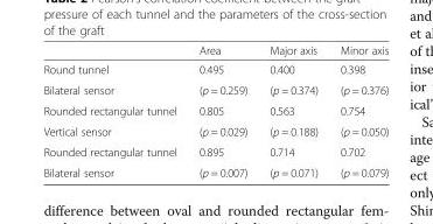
<table><thead><tr><td></td><td>Area</td><td>Major axis</td><td>Minor axis</td></tr></thead><tbody><tr><td>Round tunnel</td><td>0.495</td><td>0.400</td><td>0.398</td></tr><tr><td>Bilateral sensor</td><td>(p = 0.259)</td><td>(p = 0.374)</td><td>(p = 0.376)</td></tr><tr><td>Rounded rectangular tunnel</td><td>0.805</td><td>0.563</td><td>0.754</td></tr><tr><td>Vertical sensor</td><td>(p = 0.029)</td><td>(p = 0.188)</td><td>(p = 0.050)</td></tr><tr><td>Rounded rectangular tunnel</td><td>0.895</td><td>0.714</td><td>0.702</td></tr><tr><td>Bilateral sensor</td><td>(p = 0.007)</td><td>(p = 0.071)</td><td>(p = 0.079)</td></tr></tbody></table>